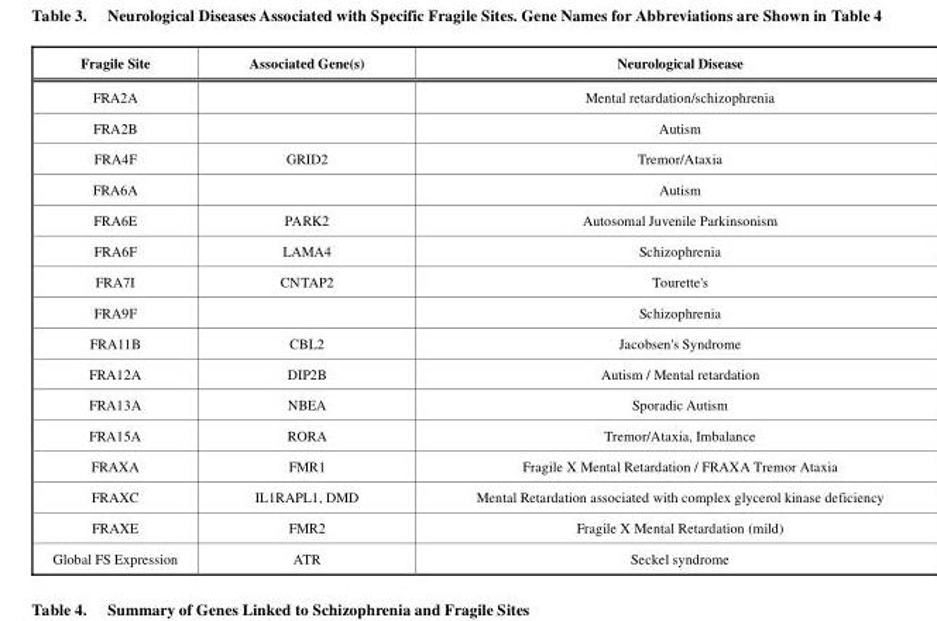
<table><thead><tr><td>Fragile Site</td><td>Associated Gene(s)</td><td>Neurological Disease</td></tr></thead><tbody><tr><td>FRA2A</td><td></td><td>Mental retardation/schizophrenia</td></tr><tr><td>FRA2B</td><td></td><td>Autism</td></tr><tr><td>FRA4F</td><td>GRID2</td><td>Tremor/Ataxia</td></tr><tr><td>FRA6A</td><td></td><td>Autism</td></tr><tr><td>FRA6E</td><td>PARK2</td><td>Autosomal Juvenile Parkinsonism</td></tr><tr><td>FRA6F</td><td>LAMA4</td><td>Schizophrenia</td></tr><tr><td>FRA7I</td><td>CNTAP2</td><td>Tourette&#x27;s</td></tr><tr><td>FRA9F</td><td></td><td>Schizophrenia</td></tr><tr><td>FRA11B</td><td>CBL2</td><td>Jacobsen&#x27;s Syndrome</td></tr><tr><td>FRA12A</td><td>DIP2B</td><td>Autism / Mental retardation</td></tr><tr><td>FRA13A</td><td>NBEA</td><td>Sporadic Autism</td></tr><tr><td>FRA15A</td><td>RORA</td><td>Tremor/Ataxia, Imbalance</td></tr><tr><td>FRAXA</td><td>FMR1</td><td>Fragile X Mental Retardation / FRAXA Tremor Ataxia</td></tr><tr><td>FRAXC</td><td>IL1RAPL1, DMD</td><td>Mental Retardation associated with complex glycerol kinase deficiency</td></tr><tr><td>FRAXE</td><td>FMR2</td><td>Fragile X Mental Retardation (mild)</td></tr><tr><td>Global FS Expression</td><td>ATR</td><td>Seckel syndrome</td></tr></tbody></table>